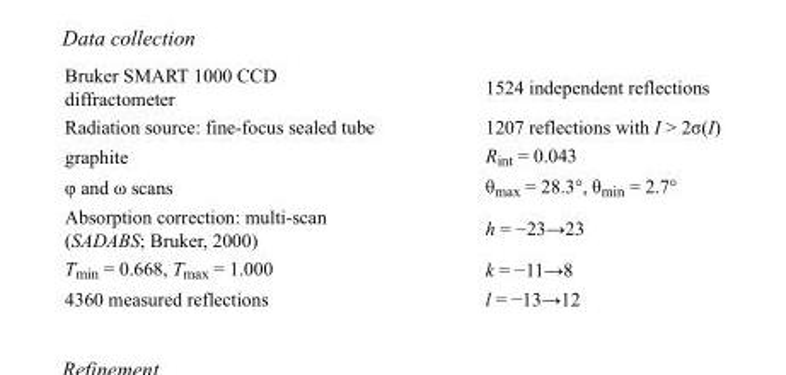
<table><tbody><tr><td>Bruker SMART 1000 CCD diffractometer</td><td>1524 independent reflections</td></tr><tr><td>Radiation source: fine-focus sealed tube</td><td>1207 reflections with I &gt; 2σ(I)</td></tr><tr><td>graphite</td><td>R<sub>int</sub> = 0.043</td></tr><tr><td>φ and ω scans</td><td>θ<sub>max</sub> = 28.3°, θ<sub>min</sub> = 2.7°</td></tr><tr><td>Absorption correction: multi-scan (SADABS; Bruker, 2000)</td><td>h = −23→23</td></tr><tr><td>T<sub>min</sub> = 0.668, T<sub>max</sub> = 1.000</td><td>k = −11→8</td></tr><tr><td>4360 measured reflections</td><td>l = −13→12</td></tr></tbody></table>